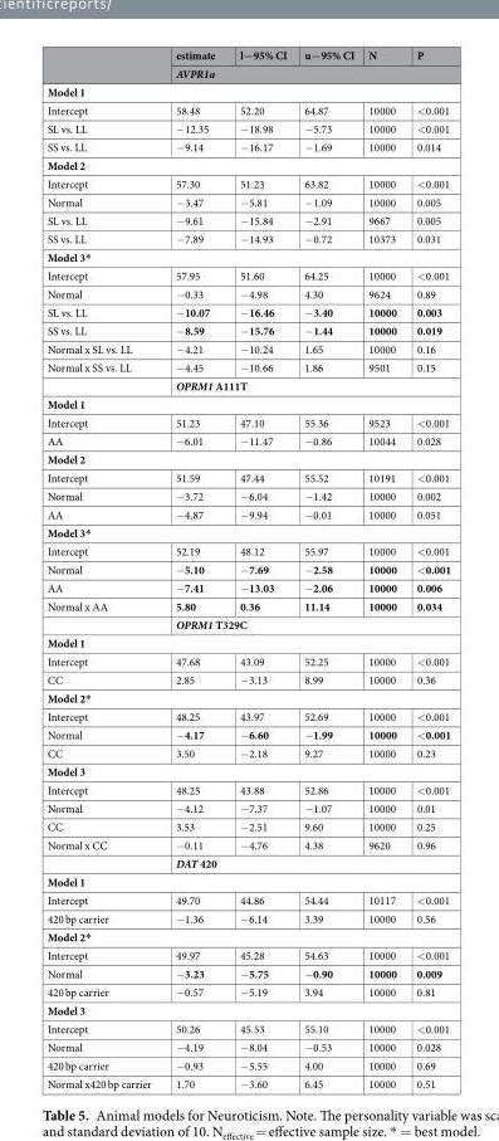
<table><thead><tr><td rowspan="2"></td><td>estimate</td><td>l−95% CI</td><td>u−95% CI</td><td>N</td><td>P</td></tr><tr><td colspan="5">AVPR1a</td></tr></thead><tbody><tr><td colspan="6">Model 1</td></tr><tr><td>Intercept</td><td>58.48</td><td>52.20</td><td>64.87</td><td>10000</td><td>&lt;0.001</td></tr><tr><td>SL vs. LL</td><td>−12.35</td><td>−18.98</td><td>−5.73</td><td>10000</td><td>&lt;0.001</td></tr><tr><td>SS vs. LL</td><td>−9.14</td><td>−16.17</td><td>−1.69</td><td>10000</td><td>0.014</td></tr><tr><td colspan="6">Model 2</td></tr><tr><td>Intercept</td><td>57.30</td><td>51.23</td><td>63.82</td><td>10000</td><td>&lt;0.001</td></tr><tr><td>Normal</td><td>−3.47</td><td>−5.81</td><td>−1.09</td><td>10000</td><td>0.005</td></tr><tr><td>SL vs. LL</td><td>−9.61</td><td>−15.84</td><td>−2.91</td><td>9667</td><td>0.005</td></tr><tr><td>SS vs. LL</td><td>−7.89</td><td>−14.93</td><td>−0.72</td><td>10373</td><td>0.031</td></tr><tr><td colspan="6">Model 3*</td></tr><tr><td>Intercept</td><td>57.95</td><td>51.60</td><td>64.25</td><td>10000</td><td>&lt;0.001</td></tr><tr><td>Normal</td><td>−0.33</td><td>−4.98</td><td>4.30</td><td>9624</td><td>0.89</td></tr><tr><td>SL vs. LL</td><td>−10.07</td><td>−16.46</td><td>−3.40</td><td>10000</td><td>0.003</td></tr><tr><td>SS vs. LL</td><td>−8.59</td><td>−15.76</td><td>−1.44</td><td>10000</td><td>0.019</td></tr><tr><td>Normal x SL vs. LL</td><td>−4.21</td><td>−10.24</td><td>1.65</td><td>10000</td><td>0.16</td></tr><tr><td rowspan="2">Normal x SS vs. LL</td><td>−4.45</td><td>−10.66</td><td>1.86</td><td>9501</td><td>0.15</td></tr><tr><td colspan="5">OPRM1 A111T</td></tr><tr><td colspan="6">Model 1</td></tr><tr><td>Intercept</td><td>51.23</td><td>47.10</td><td>55.36</td><td>9523</td><td>&lt;0.001</td></tr><tr><td>AA</td><td>−6.01</td><td>−11.47</td><td>−0.86</td><td>10044</td><td>0.028</td></tr><tr><td colspan="6">Model 2</td></tr><tr><td>Intercept</td><td>51.59</td><td>47.44</td><td>55.52</td><td>10191</td><td>&lt;0.001</td></tr><tr><td>Normal</td><td>−3.72</td><td>−6.04</td><td>−1.42</td><td>10000</td><td>0.002</td></tr><tr><td>AA</td><td>−4.87</td><td>−9.94</td><td>−0.01</td><td>10000</td><td>0.051</td></tr><tr><td colspan="6">Model 3*</td></tr><tr><td>Intercept</td><td>52.19</td><td>48.12</td><td>55.97</td><td>10000</td><td>&lt;0.001</td></tr><tr><td>Normal</td><td>−5.10</td><td>−7.69</td><td>−2.58</td><td>10000</td><td>&lt;0.001</td></tr><tr><td>AA</td><td>−7.41</td><td>−13.03</td><td>−2.06</td><td>10000</td><td>0.006</td></tr><tr><td rowspan="2">Normal x AA</td><td>5.80</td><td>0.36</td><td>11.14</td><td>10000</td><td>0.034</td></tr><tr><td colspan="5">OPRM1 T329C</td></tr><tr><td colspan="6">Model 1</td></tr><tr><td>Intercept</td><td>47.68</td><td>43.09</td><td>52.25</td><td>10000</td><td>&lt;0.001</td></tr><tr><td>CC</td><td>2.85</td><td>−3.13</td><td>8.99</td><td>10000</td><td>0.36</td></tr><tr><td colspan="6">Model 2*</td></tr><tr><td>Intercept</td><td>48.25</td><td>43.97</td><td>52.69</td><td>10000</td><td>&lt;0.001</td></tr><tr><td>Normal</td><td>−4.17</td><td>−6.60</td><td>−1.99</td><td>10000</td><td>&lt;0.001</td></tr><tr><td>CC</td><td>3.50</td><td>−2.18</td><td>9.27</td><td>10000</td><td>0.23</td></tr><tr><td colspan="6">Model 3</td></tr><tr><td>Intercept</td><td>48.25</td><td>43.88</td><td>52.86</td><td>10000</td><td>&lt;0.001</td></tr><tr><td>Normal</td><td>−4.12</td><td>−7.37</td><td>−1.07</td><td>10000</td><td>0.01</td></tr><tr><td>CC</td><td>3.53</td><td>−2.51</td><td>9.60</td><td>10000</td><td>0.25</td></tr><tr><td rowspan="2">Normal x CC</td><td>−0.11</td><td>−4.76</td><td>4.38</td><td>9620</td><td>0.96</td></tr><tr><td colspan="5">DAT 420</td></tr><tr><td colspan="6">Model 1</td></tr><tr><td>Intercept</td><td>49.70</td><td>44.86</td><td>54.44</td><td>10117</td><td>&lt;0.001</td></tr><tr><td>420 bp carrier</td><td>−1.36</td><td>−6.14</td><td>3.39</td><td>10000</td><td>0.56</td></tr><tr><td colspan="6">Model 2*</td></tr><tr><td>Intercept</td><td>49.97</td><td>45.28</td><td>54.63</td><td>10000</td><td>&lt;0.001</td></tr><tr><td>Normal</td><td>−3.23</td><td>−5.75</td><td>−0.90</td><td>10000</td><td>0.009</td></tr><tr><td>420 bp carrier</td><td>−0.57</td><td>−5.19</td><td>3.94</td><td>10000</td><td>0.81</td></tr><tr><td colspan="6">Model 3</td></tr><tr><td>Intercept</td><td>50.26</td><td>45.53</td><td>55.10</td><td>10000</td><td>&lt;0.001</td></tr><tr><td>Normal</td><td>−4.19</td><td>−8.04</td><td>−0.53</td><td>10000</td><td>0.028</td></tr><tr><td>420 bp carrier</td><td>−0.93</td><td>−5.55</td><td>4.00</td><td>10000</td><td>0.69</td></tr><tr><td>Normal x420 bp carrier</td><td>1.70</td><td>−3.60</td><td>6.45</td><td>10000</td><td>0.51</td></tr></tbody></table>